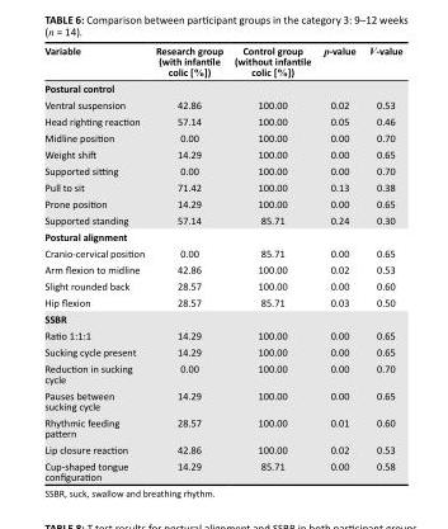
<table><thead><tr><td>Variable</td><td>Research group (with infantile colic [%])</td><td>Control group (without infantile colic [%])</td><td>p-value</td><td>V-value</td></tr></thead><tbody><tr><td colspan="5">Postural control</td></tr><tr><td>Ventral suspension</td><td>42.86</td><td>100.00</td><td>0.02</td><td>0.53</td></tr><tr><td>Head righting reaction</td><td>57.14</td><td>100.00</td><td>0.05</td><td>0.46</td></tr><tr><td>Midline position</td><td>0.00</td><td>100.00</td><td>0.00</td><td>0.70</td></tr><tr><td>Weight shift</td><td>14.29</td><td>100.00</td><td>0.00</td><td>0.65</td></tr><tr><td>Supported sitting</td><td>0.00</td><td>100.00</td><td>0.00</td><td>0.70</td></tr><tr><td>Pull to sit</td><td>71.42</td><td>100.00</td><td>0.13</td><td>0.38</td></tr><tr><td>Prone position</td><td>14.29</td><td>100.00</td><td>0.00</td><td>0.65</td></tr><tr><td>Supported standing</td><td>57.14</td><td>85.71</td><td>0.24</td><td>0.30</td></tr><tr><td colspan="5">Postural alignment</td></tr><tr><td>Cranio-cervical position</td><td>0.00</td><td>85.71</td><td>0.00</td><td>0.65</td></tr><tr><td>Arm flexion to midline</td><td>42.86</td><td>100.00</td><td>0.02</td><td>0.53</td></tr><tr><td>Slight rounded back</td><td>28.57</td><td>100.00</td><td>0.00</td><td>0.60</td></tr><tr><td>Hip flexion</td><td>28.57</td><td>85.71</td><td>0.03</td><td>0.50</td></tr><tr><td colspan="5">SSBR</td></tr><tr><td>Ratio 1:1:1</td><td>14.29</td><td>100.00</td><td>0.00</td><td>0.65</td></tr><tr><td>Sucking cycle present</td><td>14.29</td><td>100.00</td><td>0.00</td><td>0.65</td></tr><tr><td>Reduction in sucking cycle</td><td>0.00</td><td>100.00</td><td>0.00</td><td>0.70</td></tr><tr><td>Pauses between sucking cycle</td><td>14.29</td><td>100.00</td><td>0.00</td><td>0.65</td></tr><tr><td>Rhythmic feeding pattern</td><td>28.57</td><td>100.00</td><td>0.01</td><td>0.60</td></tr><tr><td>Lip closure reaction</td><td>42.86</td><td>100.00</td><td>0.02</td><td>0.53</td></tr><tr><td>Cup-shaped tongue configuration</td><td>14.29</td><td>85.71</td><td>0.00</td><td>0.58</td></tr></tbody></table>